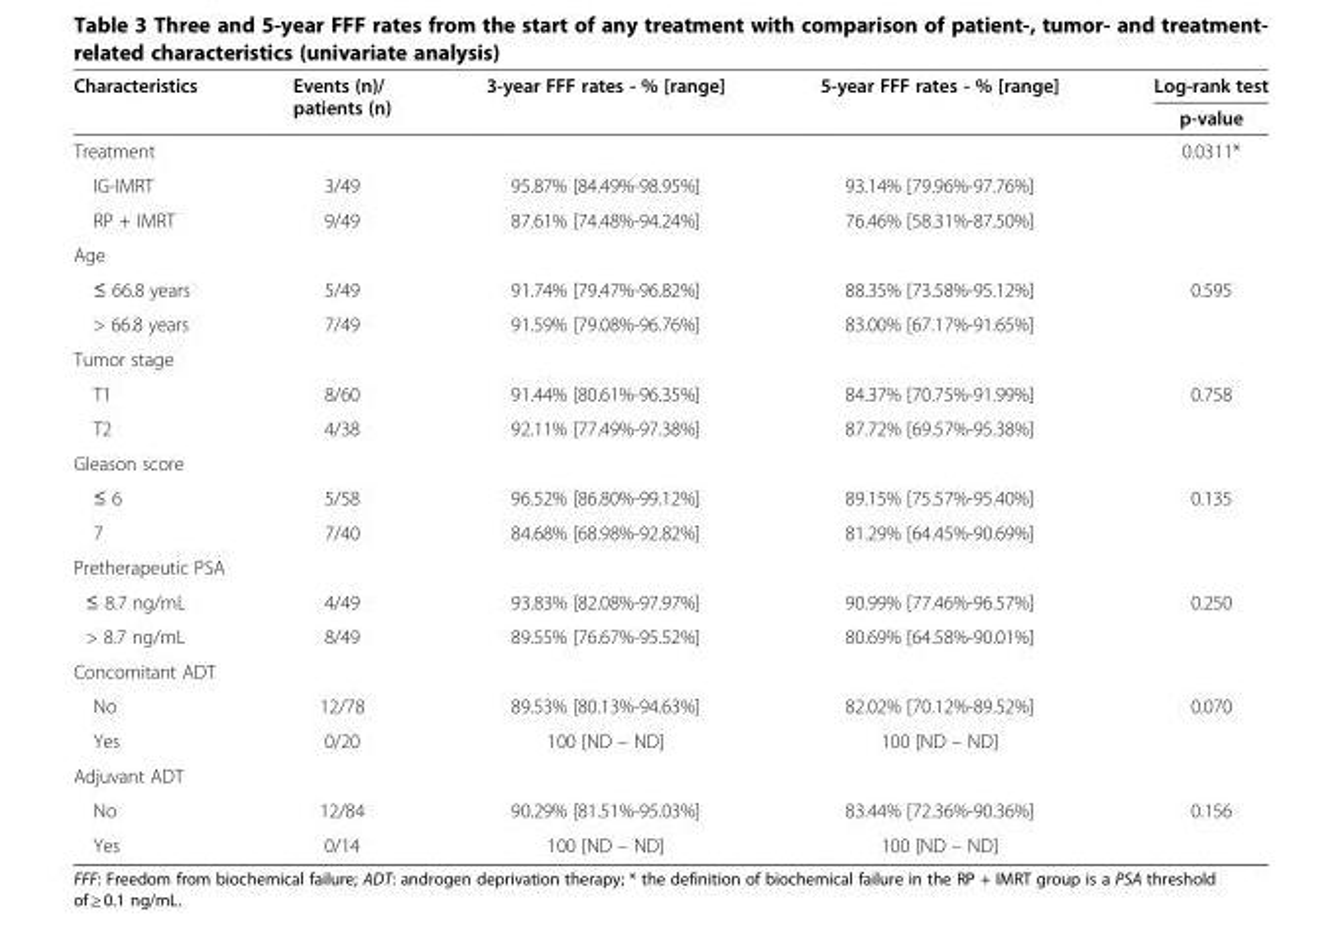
<table><thead><tr><td rowspan="2">Characteristics</td><td rowspan="2">Events (n)/ patients (n)</td><td rowspan="2">3-year FFF rates - % [range]</td><td rowspan="2">5-year FFF rates - % [range]</td><td rowspan="2">Log-rank test p-value</td></tr><tr></tr></thead><tbody><tr><td colspan="4">Treatment</td><td rowspan="3">0.0311*</td></tr><tr><td>IG-IMRT</td><td>3/49</td><td>95.87% [84.49%-98.95%]</td><td>93.14% [79.96%-97.76%]</td></tr><tr><td>RP + IMRT</td><td>9/49</td><td>87.61% [74.48%-94.24%]</td><td>76.46% [58.31%-87.50%]</td></tr><tr><td colspan="5">Age</td></tr><tr><td>≤ 66.8 years</td><td>5/49</td><td>91.74% [79.47%-96.82%]</td><td>88.35% [73.58%-95.12%]</td><td rowspan="2">0.595</td></tr><tr><td>&gt; 66.8 years</td><td>7/49</td><td>91.59% [79.08%-96.76%]</td><td>83.00% [67.17%-91.65%]</td></tr><tr><td colspan="5">Tumor stage</td></tr><tr><td>T1</td><td>8/60</td><td>91.44% [80.61%-96.35%]</td><td>84.37% [70.75%-91.99%]</td><td rowspan="2">0.758</td></tr><tr><td>T2</td><td>4/38</td><td>92.11% [77.49%-97.38%]</td><td>87.72% [69.57%-95.38%]</td></tr><tr><td colspan="5">Gleason score</td></tr><tr><td>≤ 6</td><td>5/58</td><td>96.52% [86.80%-99.12%]</td><td>89.15% [75.57%-95.40%]</td><td rowspan="2">0.135</td></tr><tr><td>7</td><td>7/40</td><td>84.68% [68.98%-92.82%]</td><td>81.29% [64.45%-90.69%]</td></tr><tr><td colspan="5">Pretherapeutic PSA</td></tr><tr><td>≤ 8.7 ng/mL</td><td>4/49</td><td>93.83% [82.08%-97.97%]</td><td>90.99% [77.46%-96.57%]</td><td rowspan="2">0.250</td></tr><tr><td>&gt; 8.7 ng/mL</td><td>8/49</td><td>89.55% [76.67%-95.52%]</td><td>80.69% [64.58%-90.01%]</td></tr><tr><td colspan="5">Concomitant ADT</td></tr><tr><td>No</td><td>12/78</td><td>89.53% [80.13%-94.63%]</td><td>82.02% [70.12%-89.52%]</td><td rowspan="2">0.070</td></tr><tr><td>Yes</td><td>0/20</td><td>100 [ND – ND]</td><td>100 [ND – ND]</td></tr><tr><td colspan="5">Adjuvant ADT</td></tr><tr><td>No</td><td>12/84</td><td>90.29% [81.51%-95.03%]</td><td>83.44% [72.36%-90.36%]</td><td>0.156</td></tr><tr><td>Yes</td><td>0/14</td><td>100 [ND – ND]</td><td>100 [ND – ND]</td><td></td></tr></tbody></table>